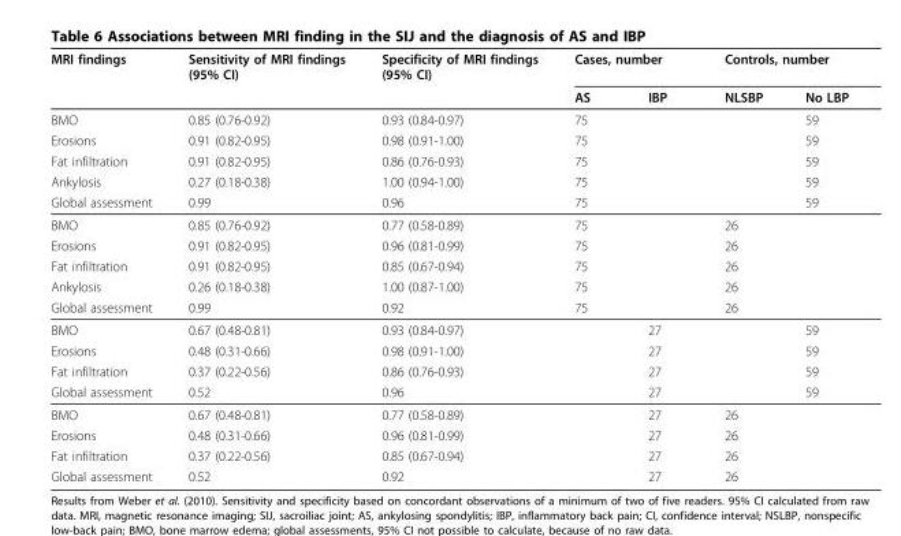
<table><thead><tr><td rowspan="2">MRI findings</td><td rowspan="2">Sensitivity of MRI findings (95% CI)</td><td rowspan="2">Specificity of MRI findings (95% CI)</td><td colspan="2">Cases, number</td><td colspan="2">Controls, number</td></tr><tr><td>AS</td><td>IBP</td><td>NLSBP</td><td>No LBP</td></tr></thead><tbody><tr><td>BMO</td><td>0.85 (0.76-0.92)</td><td>0.93 (0.84-0.97)</td><td>75</td><td></td><td></td><td>59</td></tr><tr><td>Erosions</td><td>0.91 (0.82-0.95)</td><td>0.98 (0.91-1.00)</td><td>75</td><td></td><td></td><td>59</td></tr><tr><td>Fat infiltration</td><td>0.91 (0.82-0.95)</td><td>0.86 (0.76-0.93)</td><td>75</td><td></td><td></td><td>59</td></tr><tr><td>Ankylosis</td><td>0.27 (0.18-0.38)</td><td>1.00 (0.94-1.00)</td><td>75</td><td></td><td></td><td>59</td></tr><tr><td>Global assessment</td><td>0.99</td><td>0.96</td><td>75</td><td></td><td></td><td>59</td></tr><tr><td>BMO</td><td>0.85 (0.76-0.92)</td><td>0.77 (0.58-0.89)</td><td>75</td><td></td><td>26</td><td></td></tr><tr><td>Erosions</td><td>0.91 (0.82-0.95)</td><td>0.96 (0.81-0.99)</td><td>75</td><td></td><td>26</td><td></td></tr><tr><td>Fat infiltration</td><td>0.91 (0.82-0.95)</td><td>0.85 (0.67-0.94)</td><td>75</td><td></td><td>26</td><td></td></tr><tr><td>Ankylosis</td><td>0.26 (0.18-0.38)</td><td>1.00 (0.87-1.00)</td><td>75</td><td></td><td>26</td><td></td></tr><tr><td>Global assessment</td><td>0.99</td><td>0.92</td><td>75</td><td></td><td>26</td><td></td></tr><tr><td>BMO</td><td>0.67 (0.48-0.81)</td><td>0.93 (0.84-0.97)</td><td></td><td>27</td><td></td><td>59</td></tr><tr><td>Erosions</td><td>0.48 (0.31-0.66)</td><td>0.98 (0.91-1.00)</td><td></td><td>27</td><td></td><td>59</td></tr><tr><td>Fat infiltration</td><td>0.37 (0.22-0.56)</td><td>0.86 (0.76-0.93)</td><td></td><td>27</td><td></td><td>59</td></tr><tr><td>Global assessment</td><td>0.52</td><td>0.96</td><td></td><td>27</td><td></td><td>59</td></tr><tr><td>BMO</td><td>0.67 (0.48-0.81)</td><td>0.77 (0.58-0.89)</td><td></td><td>27</td><td>26</td><td></td></tr><tr><td>Erosions</td><td>0.48 (0.31-0.66)</td><td>0.96 (0.81-0.99)</td><td></td><td>27</td><td>26</td><td></td></tr><tr><td>Fat infiltration</td><td>0.37 (0.22-0.56)</td><td>0.85 (0.67-0.94)</td><td></td><td>27</td><td>26</td><td></td></tr><tr><td>Global assessment</td><td>0.52</td><td>0.92</td><td></td><td>27</td><td>26</td><td></td></tr></tbody></table>